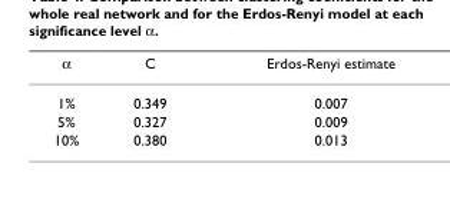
<table><thead><tr><td>α</td><td>C</td><td>Erdos-Renyi estimate</td></tr></thead><tbody><tr><td>1%</td><td>0.349</td><td>0.007</td></tr><tr><td>5%</td><td>0.327</td><td>0.009</td></tr><tr><td>10%</td><td>0.380</td><td>0.013</td></tr></tbody></table>